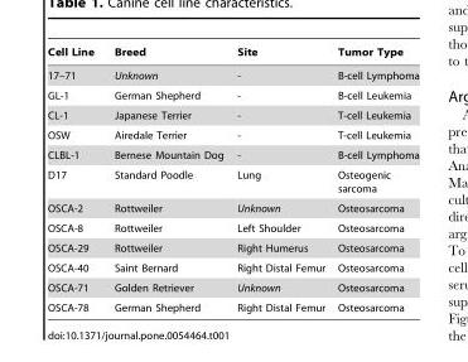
<table><thead><tr><td>Cell Line</td><td>Breed</td><td>Site</td><td>Tumor Type</td></tr></thead><tbody><tr><td>17–71</td><td>Unknown</td><td>-</td><td>B-cell Lymphoma</td></tr><tr><td>GL-1</td><td>German Shepherd</td><td>-</td><td>B-cell Leukemia</td></tr><tr><td>CL-1</td><td>Japanese Terrier</td><td>-</td><td>T-cell Leukemia</td></tr><tr><td>OSW</td><td>Airedale Terrier</td><td>-</td><td>T-cell Leukemia</td></tr><tr><td>CLBL-1</td><td>Bernese Mountain Dog</td><td>-</td><td>B-cell Lymphoma</td></tr><tr><td>D17</td><td>Standard Poodle</td><td>Lung</td><td>Osteogenic sarcoma</td></tr><tr><td>OSCA-2</td><td>Rottweiler</td><td>Unknown</td><td>Osteosarcoma</td></tr><tr><td>OSCA-8</td><td>Rottweiler</td><td>Left Shoulder</td><td>Osteosarcoma</td></tr><tr><td>OSCA-29</td><td>Rottweiler</td><td>Right Humerus</td><td>Osteosarcoma</td></tr><tr><td>OSCA-40</td><td>Saint Bernard</td><td>Right Distal Femur</td><td>Osteosarcoma</td></tr><tr><td>OSCA-71</td><td>Golden Retriever</td><td>Unknown</td><td>Osteosarcoma</td></tr><tr><td>OSCA-78</td><td>German Shepherd</td><td>Right Distal Femur</td><td>Osteosarcoma</td></tr></tbody></table>